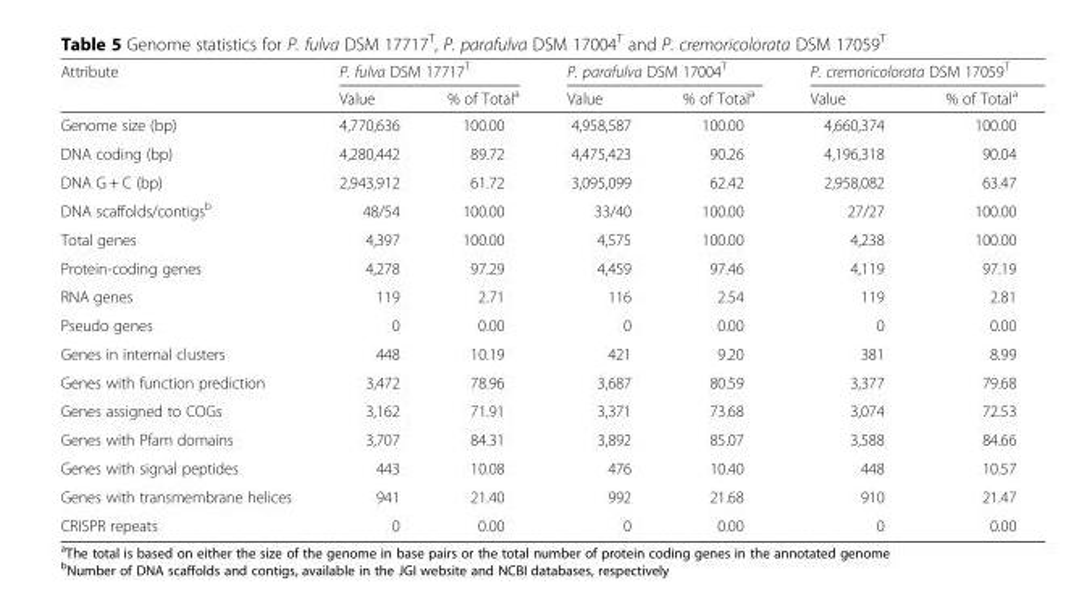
<table><thead><tr><td rowspan="2">Attribute</td><td colspan="2">P. fulva DSM 17717<sup>T</sup></td><td colspan="2">P. parafulva DSM 17004<sup>T</sup></td><td colspan="2">P. cremoricolorata DSM 17059<sup>T</sup></td></tr><tr><td>Value</td><td>% of Total<sup>a</sup></td><td>Value</td><td>% of Total<sup>a</sup></td><td>Value</td><td>% of Total<sup>a</sup></td></tr></thead><tbody><tr><td>Genome size (bp)</td><td>4,770,636</td><td>100.00</td><td>4,958,587</td><td>100.00</td><td>4,660,374</td><td>100.00</td></tr><tr><td>DNA coding (bp)</td><td>4,280,442</td><td>89.72</td><td>4,475,423</td><td>90.26</td><td>4,196,318</td><td>90.04</td></tr><tr><td>DNA G + C (bp)</td><td>2,943,912</td><td>61.72</td><td>3,095,099</td><td>62.42</td><td>2,958,082</td><td>63.47</td></tr><tr><td>DNA scaffolds/contigs<sup>b</sup></td><td>48/54</td><td>100.00</td><td>33/40</td><td>100.00</td><td>27/27</td><td>100.00</td></tr><tr><td>Total genes</td><td>4,397</td><td>100.00</td><td>4,575</td><td>100.00</td><td>4,238</td><td>100.00</td></tr><tr><td>Protein-coding genes</td><td>4,278</td><td>97.29</td><td>4,459</td><td>97.46</td><td>4,119</td><td>97.19</td></tr><tr><td>RNA genes</td><td>119</td><td>2.71</td><td>116</td><td>2.54</td><td>119</td><td>2.81</td></tr><tr><td>Pseudo genes</td><td>0</td><td>0.00</td><td>0</td><td>0.00</td><td>0</td><td>0.00</td></tr><tr><td>Genes in internal clusters</td><td>448</td><td>10.19</td><td>421</td><td>9.20</td><td>381</td><td>8.99</td></tr><tr><td>Genes with function prediction</td><td>3,472</td><td>78.96</td><td>3,687</td><td>80.59</td><td>3,377</td><td>79.68</td></tr><tr><td>Genes assigned to COGs</td><td>3,162</td><td>71.91</td><td>3,371</td><td>73.68</td><td>3,074</td><td>72.53</td></tr><tr><td>Genes with Pfam domains</td><td>3,707</td><td>84.31</td><td>3,892</td><td>85.07</td><td>3,588</td><td>84.66</td></tr><tr><td>Genes with signal peptides</td><td>443</td><td>10.08</td><td>476</td><td>10.40</td><td>448</td><td>10.57</td></tr><tr><td>Genes with transmembrane helices</td><td>941</td><td>21.40</td><td>992</td><td>21.68</td><td>910</td><td>21.47</td></tr><tr><td>CRISPR repeats</td><td>0</td><td>0.00</td><td>0</td><td>0.00</td><td>0</td><td>0.00</td></tr></tbody></table>